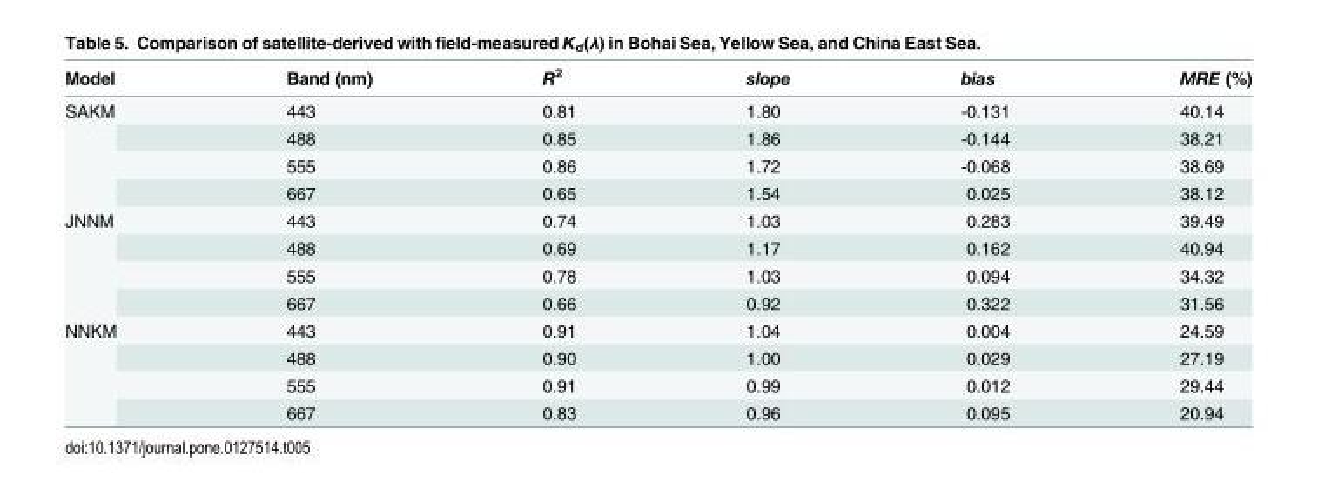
<table><thead><tr><td>Model</td><td>Band (nm)</td><td>R<sup>2</sup></td><td>slope</td><td>bias</td><td>MRE (%)</td></tr></thead><tbody><tr><td rowspan="4">SAKM</td><td>443</td><td>0.81</td><td>1.80</td><td>-0.131</td><td>40.14</td></tr><tr><td>488</td><td>0.85</td><td>1.86</td><td>-0.144</td><td>38.21</td></tr><tr><td>555</td><td>0.86</td><td>1.72</td><td>-0.068</td><td>38.69</td></tr><tr><td>667</td><td>0.65</td><td>1.54</td><td>0.025</td><td>38.12</td></tr><tr><td rowspan="4">JNNM</td><td>443</td><td>0.74</td><td>1.03</td><td>0.283</td><td>39.49</td></tr><tr><td>488</td><td>0.69</td><td>1.17</td><td>0.162</td><td>40.94</td></tr><tr><td>555</td><td>0.78</td><td>1.03</td><td>0.094</td><td>34.32</td></tr><tr><td>667</td><td>0.66</td><td>0.92</td><td>0.322</td><td>31.56</td></tr><tr><td rowspan="4">NNKM</td><td>443</td><td>0.91</td><td>1.04</td><td>0.004</td><td>24.59</td></tr><tr><td>488</td><td>0.90</td><td>1.00</td><td>0.029</td><td>27.19</td></tr><tr><td>555</td><td>0.91</td><td>0.99</td><td>0.012</td><td>29.44</td></tr><tr><td>667</td><td>0.83</td><td>0.96</td><td>0.095</td><td>20.94</td></tr></tbody></table>